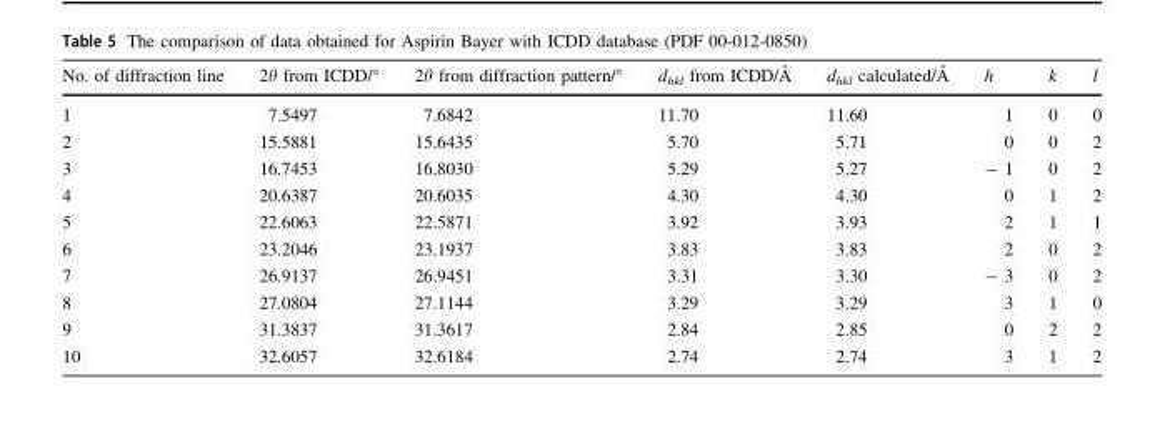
<table><thead><tr><td>No. of diffraction line</td><td>2θ from ICDD/°</td><td>2θ from diffraction pattern/°</td><td>dhkl from ICDD/A˚</td><td>dhkl calculated/A˚</td><td>h</td><td>k</td><td>l</td></tr></thead><tbody><tr><td>1</td><td>7.5497</td><td>7.6842</td><td>11.70</td><td>11.60</td><td>1</td><td>0</td><td>0</td></tr><tr><td>2</td><td>15.5881</td><td>15.6435</td><td>5.70</td><td>5.71</td><td>0</td><td>0</td><td>2</td></tr><tr><td>3</td><td>16.7453</td><td>16.8030</td><td>5.29</td><td>5.27</td><td>- 1</td><td>0</td><td>2</td></tr><tr><td>4</td><td>20.6387</td><td>20.6035</td><td>4.30</td><td>4.30</td><td>0</td><td>1</td><td>2</td></tr><tr><td>5</td><td>22.6063</td><td>22.5871</td><td>3.92</td><td>3.93</td><td>2</td><td>1</td><td>1</td></tr><tr><td>6</td><td>23.2046</td><td>23.1937</td><td>3.83</td><td>3.83</td><td>2</td><td>0</td><td>2</td></tr><tr><td>7</td><td>26.9137</td><td>26.9451</td><td>3.31</td><td>3.30</td><td>- 3</td><td>0</td><td>2</td></tr><tr><td>8</td><td>27.0804</td><td>27.1144</td><td>3.29</td><td>3.29</td><td>3</td><td>1</td><td>0</td></tr><tr><td>9</td><td>31.3837</td><td>31.3617</td><td>2.84</td><td>2.85</td><td>0</td><td>2</td><td>2</td></tr><tr><td>10</td><td>32.6057</td><td>32.6184</td><td>2.74</td><td>2.74</td><td>3</td><td>1</td><td>2</td></tr></tbody></table>